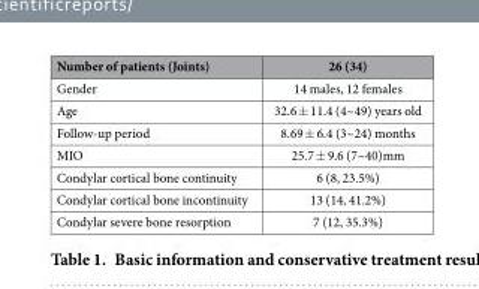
<table><thead><tr><td>Number of patients (Joints)</td><td>26 (34)</td></tr></thead><tbody><tr><td>Gender</td><td>14 males, 12 females</td></tr><tr><td>Age</td><td>32.6 ± 11.4 (4~49) years old</td></tr><tr><td>Follow-up period</td><td>8.69 ± 6.4 (3~24) months</td></tr><tr><td>MIO</td><td>25.7 ± 9.6 (7~40)mm</td></tr><tr><td>Condylar cortical bone continuity</td><td>6 (8, 23.5%)</td></tr><tr><td>Condylar cortical bone incontinuity</td><td>13 (14, 41.2%)</td></tr><tr><td>Condylar severe bone resorption</td><td>7 (12, 35.3%)</td></tr></tbody></table>